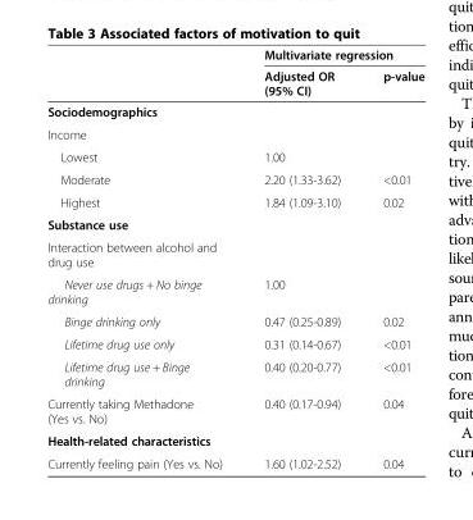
<table><thead><tr><td rowspan="2"></td><td colspan="2">Multivariate regression</td></tr><tr><td>Adjusted OR (95% CI)</td><td>p-value</td></tr></thead><tbody><tr><td colspan="3">Sociodemographics</td></tr><tr><td colspan="3">Income</td></tr><tr><td>Lowest</td><td>1.00</td><td></td></tr><tr><td>Moderate</td><td>2.20 (1.33-3.62)</td><td>&lt;0.01</td></tr><tr><td>Highest</td><td>1.84 (1.09-3.10)</td><td>0.02</td></tr><tr><td colspan="3">Substance use</td></tr><tr><td colspan="3">Interaction between alcohol and drug use</td></tr><tr><td>Never use drugs + No binge drinking</td><td>1.00</td><td></td></tr><tr><td>Binge drinking only</td><td>0.47 (0.25-0.89)</td><td>0.02</td></tr><tr><td>Lifetime drug use only</td><td>0.31 (0.14-0.67)</td><td>&lt;0.01</td></tr><tr><td>Lifetime drug use + Binge drinking</td><td>0.40 (0.20-0.77)</td><td>&lt;0.01</td></tr><tr><td>Currently taking Methadone (Yes vs. No)</td><td>0.40 (0.17-0.94)</td><td>0.04</td></tr><tr><td colspan="3">Health-related characteristics</td></tr><tr><td>Currently feeling pain (Yes vs. No)</td><td>1.60 (1.02-2.52)</td><td>0.04</td></tr></tbody></table>